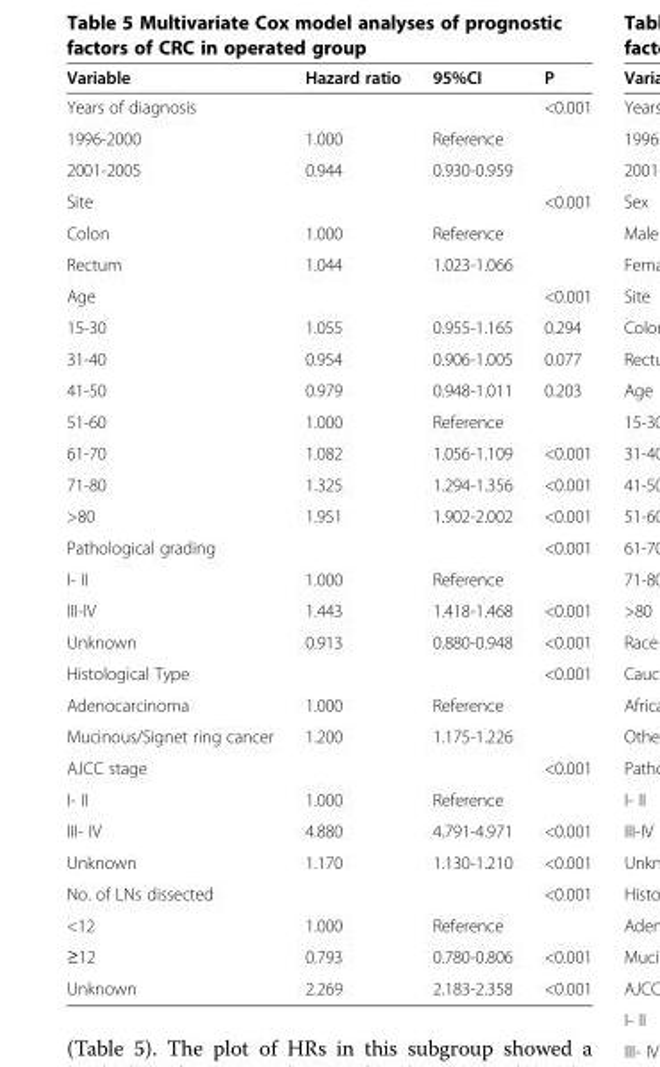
<table><thead><tr><td>Variable</td><td>Hazard ratio</td><td>95%CI</td><td>P</td></tr></thead><tbody><tr><td>Years of diagnosis</td><td></td><td></td><td>&lt;0.001</td></tr><tr><td>1996-2000</td><td>1.000</td><td>Reference</td><td></td></tr><tr><td>2001-2005</td><td>0.944</td><td>0.930-0.959</td><td></td></tr><tr><td>Site</td><td></td><td></td><td>&lt;0.001</td></tr><tr><td>Colon</td><td>1.000</td><td>Reference</td><td></td></tr><tr><td>Rectum</td><td>1.044</td><td>1.023-1.066</td><td></td></tr><tr><td>Age</td><td></td><td></td><td>&lt;0.001</td></tr><tr><td>15-30</td><td>1.055</td><td>0.955-1.165</td><td>0.294</td></tr><tr><td>31-40</td><td>0.954</td><td>0.906-1.005</td><td>0.077</td></tr><tr><td>41-50</td><td>0.979</td><td>0.948-1.011</td><td>0.203</td></tr><tr><td>51-60</td><td>1.000</td><td>Reference</td><td></td></tr><tr><td>61-70</td><td>1.082</td><td>1.056-1.109</td><td>&lt;0.001</td></tr><tr><td>71-80</td><td>1.325</td><td>1.294-1.356</td><td>&lt;0.001</td></tr><tr><td>&gt;80</td><td>1.951</td><td>1.902-2.002</td><td>&lt;0.001</td></tr><tr><td>Pathological grading</td><td></td><td></td><td>&lt;0.001</td></tr><tr><td>I- II</td><td>1.000</td><td>Reference</td><td></td></tr><tr><td>III-IV</td><td>1.443</td><td>1.418-1.468</td><td>&lt;0.001</td></tr><tr><td>Unknown</td><td>0.913</td><td>0.880-0.948</td><td>&lt;0.001</td></tr><tr><td>Histological Type</td><td></td><td></td><td>&lt;0.001</td></tr><tr><td>Adenocarcinoma</td><td>1.000</td><td>Reference</td><td></td></tr><tr><td>Mucinous/Signet ring cancer</td><td>1.200</td><td>1.175-1.226</td><td></td></tr><tr><td>AJCC stage</td><td></td><td></td><td>&lt;0.001</td></tr><tr><td>I- II</td><td>1.000</td><td>Reference</td><td></td></tr><tr><td>III- IV</td><td>4.880</td><td>4.791-4.971</td><td>&lt;0.001</td></tr><tr><td>Unknown</td><td>1.170</td><td>1.130-1.210</td><td>&lt;0.001</td></tr><tr><td>No. of LNs dissected</td><td></td><td></td><td>&lt;0.001</td></tr><tr><td>&lt;12</td><td>1.000</td><td>Reference</td><td></td></tr><tr><td>≥12</td><td>0.793</td><td>0.780-0.806</td><td>&lt;0.001</td></tr><tr><td>Unknown</td><td>2.269</td><td>2.183-2.358</td><td>&lt;0.001</td></tr></tbody></table>